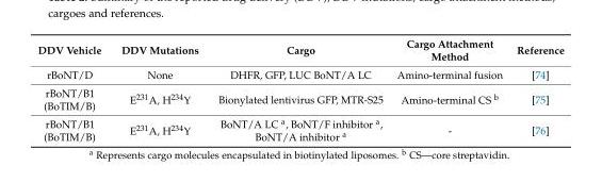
<table><thead><tr><td>DDV Vehicle</td><td>DDV Mutations</td><td>Cargo</td><td>Cargo Attachment Method</td><td>Reference</td></tr></thead><tbody><tr><td>rBoNT/D</td><td>None</td><td>DHFR, GFP, LUC BoNT/A LC</td><td>Amino-terminal fusion</td><td>[74]</td></tr><tr><td>rBoNT/B1 (BoTIM/B)</td><td>E<sup>231</sup>A, H<sup>234</sup>Y</td><td>Bionylated lentivirus GFP, MTR-S25</td><td>Amino-terminal CS <sup>b</sup></td><td>[75]</td></tr><tr><td>rBoNT/B1 (BoTIM/B)</td><td>E<sup>231</sup>A, H<sup>234</sup>Y</td><td>BoNT/A LC <sup>a</sup>, BoNT/F inhibitor <sup>a</sup>, BoNT/A inhibitor <sup>a</sup></td><td>-</td><td>[76]</td></tr></tbody></table>